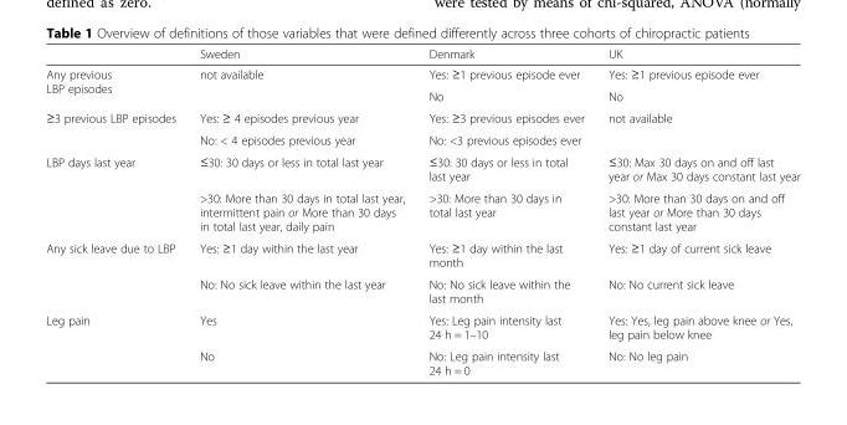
<table><thead><tr><td></td><td>Sweden</td><td>Denmark</td><td>UK</td></tr></thead><tbody><tr><td rowspan="2">Any previous LBP episodes</td><td rowspan="2">not available</td><td>Yes: ≥1 previous episode ever</td><td>Yes: ≥1 previous episode ever</td></tr><tr><td>No</td><td>No</td></tr><tr><td rowspan="2">≥3 previous LBP episodes</td><td>Yes: ≥ 4 episodes previous year</td><td>Yes: ≥3 previous episodes ever</td><td rowspan="2">not available</td></tr><tr><td>No: &lt; 4 episodes previous year</td><td>No: &lt;3 previous episodes ever</td></tr><tr><td rowspan="2">LBP days last year</td><td>≤30: 30 days or less in total last year</td><td>≤30: 30 days or less in total last year</td><td>≤30: Max 30 days on and off last year or Max 30 days constant last year</td></tr><tr><td>&gt;30: More than 30 days in total last year, intermittent pain or More than 30 days in total last year, daily pain</td><td>&gt;30: More than 30 days in total last year</td><td>&gt;30: More than 30 days on and off last year or More than 30 days constant last year</td></tr><tr><td rowspan="2">Any sick leave due to LBP</td><td>Yes: ≥1 day within the last year</td><td>Yes: ≥1 day within the last month</td><td>Yes: ≥1 day of current sick leave</td></tr><tr><td>No: No sick leave within the last year</td><td>No: No sick leave within the last month</td><td>No: No current sick leave</td></tr><tr><td rowspan="2">Leg pain</td><td>Yes</td><td>Yes: Leg pain intensity last 24 h = 1–10</td><td>Yes: Yes, leg pain above knee or Yes, leg pain below knee</td></tr><tr><td>No</td><td>No: Leg pain intensity last 24 h = 0</td><td>No: No leg pain</td></tr></tbody></table>